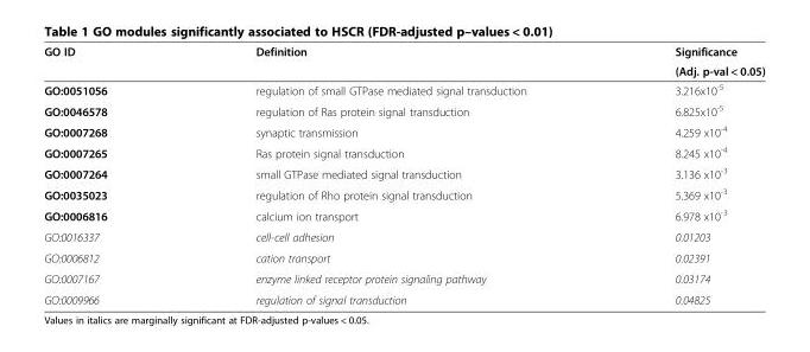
<table><thead><tr><td rowspan="2">GO ID</td><td rowspan="2">Definition</td><td rowspan="2">Significance (Adj. p-val &lt; 0.05)</td></tr><tr></tr></thead><tbody><tr><td>GO:0051056</td><td>regulation of small GTPase mediated signal transduction</td><td>3.216x10<sup>-5</sup></td></tr><tr><td>GO:0046578</td><td>regulation of Ras protein signal transduction</td><td>6.825x10<sup>-5</sup></td></tr><tr><td>GO:0007268</td><td>synaptic transmission</td><td>4.259 x10<sup>-4</sup></td></tr><tr><td>GO:0007265</td><td>Ras protein signal transduction</td><td>8.245 x10<sup>-4</sup></td></tr><tr><td>GO:0007264</td><td>small GTPase mediated signal transduction</td><td>3.136 x10<sup>-3</sup></td></tr><tr><td>GO:0035023</td><td>regulation of Rho protein signal transduction</td><td>5.369 x10<sup>-3</sup></td></tr><tr><td>GO:0006816</td><td>calcium ion transport</td><td>6.978 x10<sup>-3</sup></td></tr><tr><td>GO:0016337</td><td>cell-cell adhesion</td><td>0.01203</td></tr><tr><td>GO:0006812</td><td>cation transport</td><td>0.02391</td></tr><tr><td>GO:0007167</td><td>enzyme linked receptor protein signaling pathway</td><td>0.03174</td></tr><tr><td>GO:0009966</td><td>regulation of signal transduction</td><td>0.04825</td></tr></tbody></table>